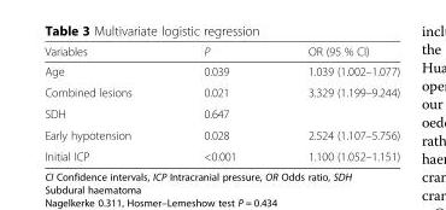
<table><thead><tr><td>Variables</td><td>P</td><td>OR (95 % CI)</td></tr></thead><tbody><tr><td>Age</td><td>0.039</td><td>1.039 (1.002–1.077)</td></tr><tr><td>Combined lesions</td><td>0.021</td><td>3.329 (1.199–9.244)</td></tr><tr><td>SDH</td><td>0.647</td><td></td></tr><tr><td>Early hypotension</td><td>0.028</td><td>2.524 (1.107–5.756)</td></tr><tr><td>Initial ICP</td><td>&lt;0.001</td><td>1.100 (1.052–1.151)</td></tr></tbody></table>